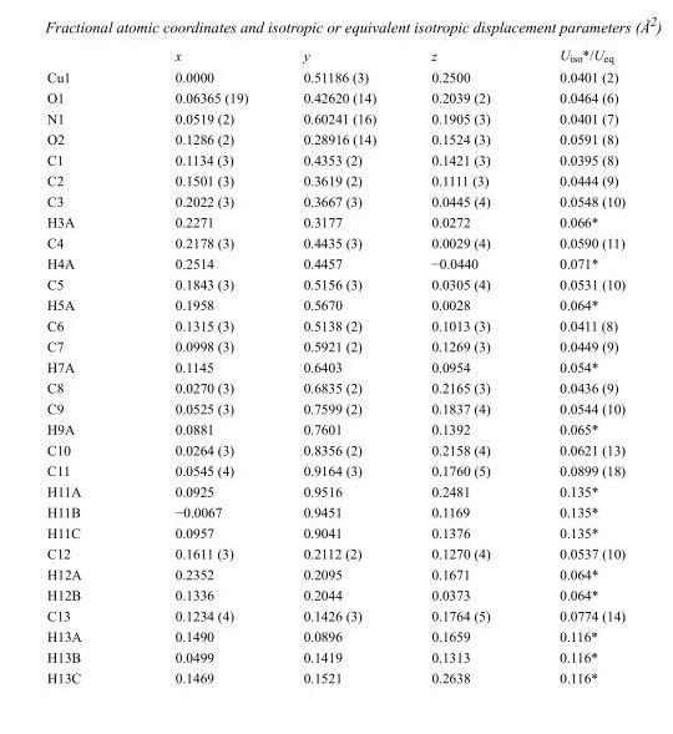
<table><thead><tr><td></td><td>x</td><td>y</td><td>z</td><td>U<sub>iso</sub>*/U<sub>eq</sub></td></tr></thead><tbody><tr><td>Cu1</td><td>0.0000</td><td>0.51186 (3)</td><td>0.2500</td><td>0.0401 (2)</td></tr><tr><td>O1</td><td>0.06365 (19)</td><td>0.42620 (14)</td><td>0.2039 (2)</td><td>0.0464 (6)</td></tr><tr><td>N1</td><td>0.0519 (2)</td><td>0.60241 (16)</td><td>0.1905 (3)</td><td>0.0401 (7)</td></tr><tr><td>O2</td><td>0.1286 (2)</td><td>0.28916 (14)</td><td>0.1524 (3)</td><td>0.0591 (8)</td></tr><tr><td>C1</td><td>0.1134 (3)</td><td>0.4353 (2)</td><td>0.1421 (3)</td><td>0.0395 (8)</td></tr><tr><td>C2</td><td>0.1501 (3)</td><td>0.3619 (2)</td><td>0.1111 (3)</td><td>0.0444 (9)</td></tr><tr><td>C3</td><td>0.2022 (3)</td><td>0.3667 (3)</td><td>0.0445 (4)</td><td>0.0548 (10)</td></tr><tr><td>H3A</td><td>0.2271</td><td>0.3177</td><td>0.0272</td><td>0.066*</td></tr><tr><td>C4</td><td>0.2178 (3)</td><td>0.4435 (3)</td><td>0.0029 (4)</td><td>0.0590 (11)</td></tr><tr><td>H4A</td><td>0.2514</td><td>0.4457</td><td>−0.0440</td><td>0.071*</td></tr><tr><td>C5</td><td>0.1843 (3)</td><td>0.5156 (3)</td><td>0.0305 (4)</td><td>0.0531 (10)</td></tr><tr><td>H5A</td><td>0.1958</td><td>0.5670</td><td>0.0028</td><td>0.064*</td></tr><tr><td>C6</td><td>0.1315 (3)</td><td>0.5138 (2)</td><td>0.1013 (3)</td><td>0.0411 (8)</td></tr><tr><td>C7</td><td>0.0998 (3)</td><td>0.5921 (2)</td><td>0.1269 (3)</td><td>0.0449 (9)</td></tr><tr><td>H7A</td><td>0.1145</td><td>0.6403</td><td>0.0954</td><td>0.054*</td></tr><tr><td>C8</td><td>0.0270 (3)</td><td>0.6835 (2)</td><td>0.2165 (3)</td><td>0.0436 (9)</td></tr><tr><td>C9</td><td>0.0525 (3)</td><td>0.7599 (2)</td><td>0.1837 (4)</td><td>0.0544 (10)</td></tr><tr><td>H9A</td><td>0.0881</td><td>0.7601</td><td>0.1392</td><td>0.065*</td></tr><tr><td>C10</td><td>0.0264 (3)</td><td>0.8356 (2)</td><td>0.2158 (4)</td><td>0.0621 (13)</td></tr><tr><td>C11</td><td>0.0545 (4)</td><td>0.9164 (3)</td><td>0.1760 (5)</td><td>0.0899 (18)</td></tr><tr><td>H11A</td><td>0.0925</td><td>0.9516</td><td>0.2481</td><td>0.135*</td></tr><tr><td>H11B</td><td>−0.0067</td><td>0.9451</td><td>0.1169</td><td>0.135*</td></tr><tr><td>H11C</td><td>0.0957</td><td>0.9041</td><td>0.1376</td><td>0.135*</td></tr><tr><td>C12</td><td>0.1611 (3)</td><td>0.2112 (2)</td><td>0.1270 (4)</td><td>0.0537 (10)</td></tr><tr><td>H12A</td><td>0.2352</td><td>0.2095</td><td>0.1671</td><td>0.064*</td></tr><tr><td>H12B</td><td>0.1336</td><td>0.2044</td><td>0.0373</td><td>0.064*</td></tr><tr><td>C13</td><td>0.1234 (4)</td><td>0.1426 (3)</td><td>0.1764 (5)</td><td>0.0774 (14)</td></tr><tr><td>H13A</td><td>0.1490</td><td>0.0896</td><td>0.1659</td><td>0.116*</td></tr><tr><td>H13B</td><td>0.0499</td><td>0.1419</td><td>0.1313</td><td>0.116*</td></tr><tr><td>H13C</td><td>0.1469</td><td>0.1521</td><td>0.2638</td><td>0.116*</td></tr></tbody></table>